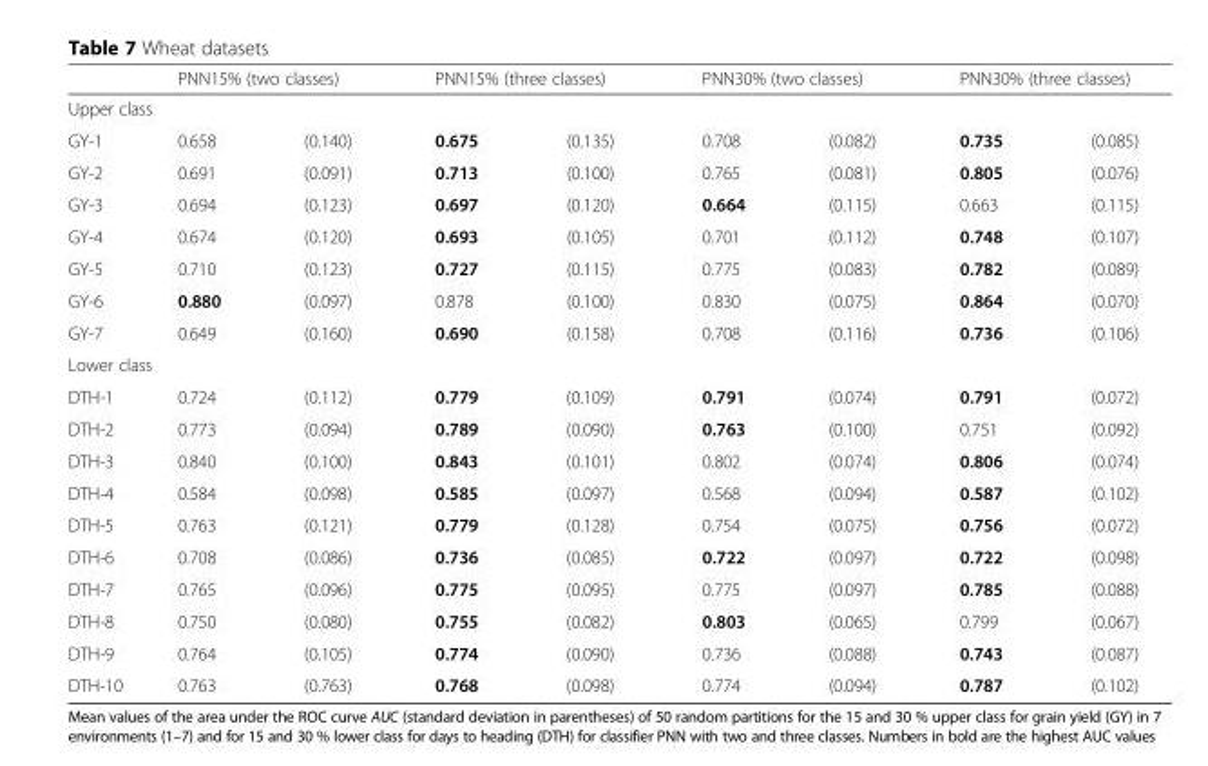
<table><thead><tr><td></td><td colspan="2">PNN15% (two classes)</td><td colspan="2">PNN15% (three classes)</td><td colspan="2">PNN30% (two classes)</td><td colspan="2">PNN30% (three classes)</td></tr><tr><td colspan="9">Upper class</td></tr><tr><td>GY-1</td><td>0.658</td><td>(0.140)</td><td>0.675</td><td>(0.135)</td><td>0.708</td><td>(0.082)</td><td>0.735</td><td>(0.085)</td></tr></thead><tbody><tr><td>GY-2</td><td>0.691</td><td>(0.091)</td><td>0.713</td><td>(0.100)</td><td>0.765</td><td>(0.081)</td><td>0.805</td><td>(0.076)</td></tr><tr><td>GY-3</td><td>0.694</td><td>(0.123)</td><td>0.697</td><td>(0.120)</td><td>0.664</td><td>(0.115)</td><td>0.663</td><td>(0.115)</td></tr><tr><td>GY-4</td><td>0.674</td><td>(0.120)</td><td>0.693</td><td>(0.105)</td><td>0.701</td><td>(0.112)</td><td>0.748</td><td>(0.107)</td></tr><tr><td>GY-5</td><td>0.710</td><td>(0.123)</td><td>0.727</td><td>(0.115)</td><td>0.775</td><td>(0.083)</td><td>0.782</td><td>(0.089)</td></tr><tr><td>GY-6</td><td>0.880</td><td>(0.097)</td><td>0.878</td><td>(0.100)</td><td>0.830</td><td>(0.075)</td><td>0.864</td><td>(0.070)</td></tr><tr><td>GY-7</td><td>0.649</td><td>(0.160)</td><td>0.690</td><td>(0.158)</td><td>0.708</td><td>(0.116)</td><td>0.736</td><td>(0.106)</td></tr><tr><td colspan="9">Lower class</td></tr><tr><td>DTH-1</td><td>0.724</td><td>(0.112)</td><td>0.779</td><td>(0.109)</td><td>0.791</td><td>(0.074)</td><td>0.791</td><td>(0.072)</td></tr><tr><td>DTH-2</td><td>0.773</td><td>(0.094)</td><td>0.789</td><td>(0.090)</td><td>0.763</td><td>(0.100)</td><td>0.751</td><td>(0.092)</td></tr><tr><td>DTH-3</td><td>0.840</td><td>(0.100)</td><td>0.843</td><td>(0.101)</td><td>0.802</td><td>(0.074)</td><td>0.806</td><td>(0.074)</td></tr><tr><td>DTH-4</td><td>0.584</td><td>(0.098)</td><td>0.585</td><td>(0.097)</td><td>0.568</td><td>(0.094)</td><td>0.587</td><td>(0.102)</td></tr><tr><td>DTH-5</td><td>0.763</td><td>(0.121)</td><td>0.779</td><td>(0.128)</td><td>0.754</td><td>(0.075)</td><td>0.756</td><td>(0.072)</td></tr><tr><td>DTH-6</td><td>0.708</td><td>(0.086)</td><td>0.736</td><td>(0.085)</td><td>0.722</td><td>(0.097)</td><td>0.722</td><td>(0.098)</td></tr><tr><td>DTH-7</td><td>0.765</td><td>(0.096)</td><td>0.775</td><td>(0.095)</td><td>0.775</td><td>(0.097)</td><td>0.785</td><td>(0.088)</td></tr><tr><td>DTH-8</td><td>0.750</td><td>(0.080)</td><td>0.755</td><td>(0.082)</td><td>0.803</td><td>(0.065)</td><td>0.799</td><td>(0.067)</td></tr><tr><td>DTH-9</td><td>0.764</td><td>(0.105)</td><td>0.774</td><td>(0.090)</td><td>0.736</td><td>(0.088)</td><td>0.743</td><td>(0.087)</td></tr><tr><td>DTH-10</td><td>0.763</td><td>(0.763)</td><td>0.768</td><td>(0.098)</td><td>0.774</td><td>(0.094)</td><td>0.787</td><td>(0.102)</td></tr></tbody></table>